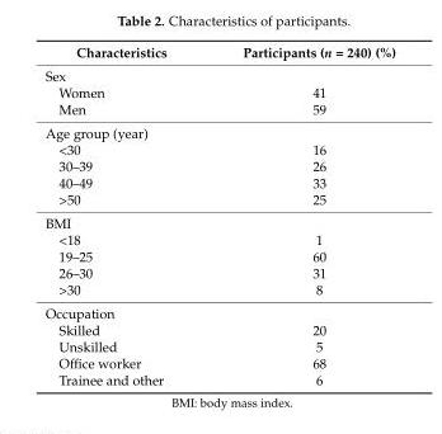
<table><thead><tr><td>Characteristics</td><td>Participants (n = 240) (%)</td></tr></thead><tbody><tr><td colspan="2">Sex</td></tr><tr><td>Women</td><td>41</td></tr><tr><td>Men</td><td>59</td></tr><tr><td colspan="2">Age group (year)</td></tr><tr><td>&lt;30</td><td>16</td></tr><tr><td>30–39</td><td>26</td></tr><tr><td>40–49</td><td>33</td></tr><tr><td>&gt;50</td><td>25</td></tr><tr><td colspan="2">BMI</td></tr><tr><td>&lt;18</td><td>1</td></tr><tr><td>19–25</td><td>60</td></tr><tr><td>26–30</td><td>31</td></tr><tr><td>&gt;30</td><td>8</td></tr><tr><td colspan="2">Occupation</td></tr><tr><td>Skilled</td><td>20</td></tr><tr><td>Unskilled</td><td>5</td></tr><tr><td>Office worker</td><td>68</td></tr><tr><td>Trainee and other</td><td>6</td></tr></tbody></table>